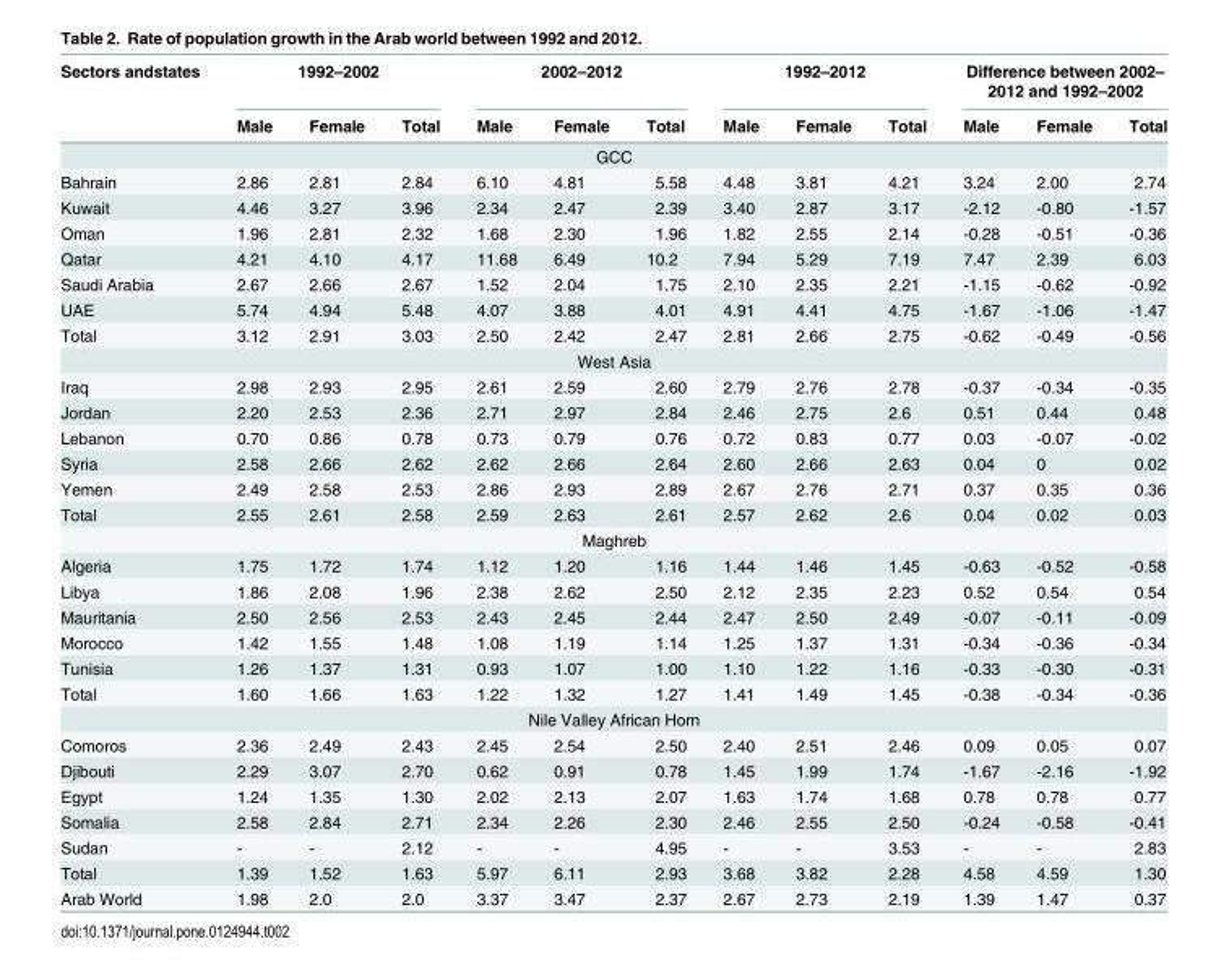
<table><thead><tr><td rowspan="2">Sectors andstates</td><td colspan="3">1992–2002</td><td colspan="3">2002–2012</td><td colspan="3">1992–2012</td><td colspan="3">Difference between 2002– 2012 and 1992–2002</td></tr><tr><td>Male</td><td>Female</td><td>Total</td><td>Male</td><td>Female</td><td>Total</td><td>Male</td><td>Female</td><td>Total</td><td>Male</td><td>Female</td><td>Total</td></tr></thead><tbody><tr><td colspan="13">GCC</td></tr><tr><td>Bahrain</td><td>2.86</td><td>2.81</td><td>2.84</td><td>6.10</td><td>4.81</td><td>5.58</td><td>4.48</td><td>3.81</td><td>4.21</td><td>3.24</td><td>2.00</td><td>2.74</td></tr><tr><td>Kuwait</td><td>4.46</td><td>3.27</td><td>3.96</td><td>2.34</td><td>2.47</td><td>2.39</td><td>3.40</td><td>2.87</td><td>3.17</td><td>-2.12</td><td>-0.80</td><td>-1.57</td></tr><tr><td>Oman</td><td>1.96</td><td>2.81</td><td>2.32</td><td>1.68</td><td>2.30</td><td>1.96</td><td>1.82</td><td>2.55</td><td>2.14</td><td>-0.28</td><td>-0.51</td><td>-0.36</td></tr><tr><td>Qatar</td><td>4.21</td><td>4.10</td><td>4.17</td><td>11.68</td><td>6.49</td><td>10.2</td><td>7.94</td><td>5.29</td><td>7.19</td><td>7.47</td><td>2.39</td><td>6.03</td></tr><tr><td>Saudi Arabia</td><td>2.67</td><td>2.66</td><td>2.67</td><td>1.52</td><td>2.04</td><td>1.75</td><td>2.10</td><td>2.35</td><td>2.21</td><td>-1.15</td><td>-0.62</td><td>-0.92</td></tr><tr><td>UAE</td><td>5.74</td><td>4.94</td><td>5.48</td><td>4.07</td><td>3.88</td><td>4.01</td><td>4.91</td><td>4.41</td><td>4.75</td><td>-1.67</td><td>-1.06</td><td>-1.47</td></tr><tr><td>Total</td><td>3.12</td><td>2.91</td><td>3.03</td><td>2.50</td><td>2.42</td><td>2.47</td><td>2.81</td><td>2.66</td><td>2.75</td><td>-0.62</td><td>-0.49</td><td>-0.56</td></tr><tr><td colspan="13">West Asia</td></tr><tr><td>Iraq</td><td>2.98</td><td>2.93</td><td>2.95</td><td>2.61</td><td>2.59</td><td>2.60</td><td>2.79</td><td>2.76</td><td>2.78</td><td>-0.37</td><td>-0.34</td><td>-0.35</td></tr><tr><td>Jordan</td><td>2.20</td><td>2.53</td><td>2.36</td><td>2.71</td><td>2.97</td><td>2.84</td><td>2.46</td><td>2.75</td><td>2.6</td><td>0.51</td><td>0.44</td><td>0.48</td></tr><tr><td>Lebanon</td><td>0.70</td><td>0.86</td><td>0.78</td><td>0.73</td><td>0.79</td><td>0.76</td><td>0.72</td><td>0.83</td><td>0.77</td><td>0.03</td><td>-0.07</td><td>-0.02</td></tr><tr><td>Syria</td><td>2.58</td><td>2.66</td><td>2.62</td><td>2.62</td><td>2.66</td><td>2.64</td><td>2.60</td><td>2.66</td><td>2.63</td><td>0.04</td><td>0</td><td>0.02</td></tr><tr><td>Yemen</td><td>2.49</td><td>2.58</td><td>2.53</td><td>2.86</td><td>2.93</td><td>2.89</td><td>2.67</td><td>2.76</td><td>2.71</td><td>0.37</td><td>0.35</td><td>0.36</td></tr><tr><td>Total</td><td>2.55</td><td>2.61</td><td>2.58</td><td>2.59</td><td>2.63</td><td>2.61</td><td>2.57</td><td>2.62</td><td>2.6</td><td>0.04</td><td>0.02</td><td>0.03</td></tr><tr><td colspan="13">Maghreb</td></tr><tr><td>Algeria</td><td>1.75</td><td>1.72</td><td>1.74</td><td>1.12</td><td>1.20</td><td>1.16</td><td>1.44</td><td>1.46</td><td>1.45</td><td>-0.63</td><td>-0.52</td><td>-0.58</td></tr><tr><td>Libya</td><td>1.86</td><td>2.08</td><td>1.96</td><td>2.38</td><td>2.62</td><td>2.50</td><td>2.12</td><td>2.35</td><td>2.23</td><td>0.52</td><td>0.54</td><td>0.54</td></tr><tr><td>Mauritania</td><td>2.50</td><td>2.56</td><td>2.53</td><td>2.43</td><td>2.45</td><td>2.44</td><td>2.47</td><td>2.50</td><td>2.49</td><td>-0.07</td><td>-0.11</td><td>-0.09</td></tr><tr><td>Morocco</td><td>1.42</td><td>1.55</td><td>1.48</td><td>1.08</td><td>1.19</td><td>1.14</td><td>1.25</td><td>1.37</td><td>1.31</td><td>-0.34</td><td>-0.36</td><td>-0.34</td></tr><tr><td>Tunisia</td><td>1.26</td><td>1.37</td><td>1.31</td><td>0.93</td><td>1.07</td><td>1.00</td><td>1.10</td><td>1.22</td><td>1.16</td><td>-0.33</td><td>-0.30</td><td>-0.31</td></tr><tr><td>Total</td><td>1.60</td><td>1.66</td><td>1.63</td><td>1.22</td><td>1.32</td><td>1.27</td><td>1.41</td><td>1.49</td><td>1.45</td><td>-0.38</td><td>-0.34</td><td>-0.36</td></tr><tr><td colspan="13">Nile Valley African Horn</td></tr><tr><td>Comoros</td><td>2.36</td><td>2.49</td><td>2.43</td><td>2.45</td><td>2.54</td><td>2.50</td><td>2.40</td><td>2.51</td><td>2.46</td><td>0.09</td><td>0.05</td><td>0.07</td></tr><tr><td>Djibouti</td><td>2.29</td><td>3.07</td><td>2.70</td><td>0.62</td><td>0.91</td><td>0.78</td><td>1.45</td><td>1.99</td><td>1.74</td><td>-1.67</td><td>-2.16</td><td>-1.92</td></tr><tr><td>Egypt</td><td>1.24</td><td>1.35</td><td>1.30</td><td>2.02</td><td>2.13</td><td>2.07</td><td>1.63</td><td>1.74</td><td>1.68</td><td>0.78</td><td>0.78</td><td>0.77</td></tr><tr><td>Somalia</td><td>2.58</td><td>2.84</td><td>2.71</td><td>2.34</td><td>2.26</td><td>2.30</td><td>2.46</td><td>2.55</td><td>2.50</td><td>-0.24</td><td>-0.58</td><td>-0.41</td></tr><tr><td>Sudan</td><td>-</td><td>-</td><td>2.12</td><td>-</td><td>-</td><td>4.95</td><td>-</td><td>-</td><td>3.53</td><td>-</td><td>-</td><td>2.83</td></tr><tr><td>Total</td><td>1.39</td><td>1.52</td><td>1.63</td><td>5.97</td><td>6.11</td><td>2.93</td><td>3.68</td><td>3.82</td><td>2.28</td><td>4.58</td><td>4.59</td><td>1.30</td></tr><tr><td>Arab World</td><td>1.98</td><td>2.0</td><td>2.0</td><td>3.37</td><td>3.47</td><td>2.37</td><td>2.67</td><td>2.73</td><td>2.19</td><td>1.39</td><td>1.47</td><td>0.37</td></tr></tbody></table>